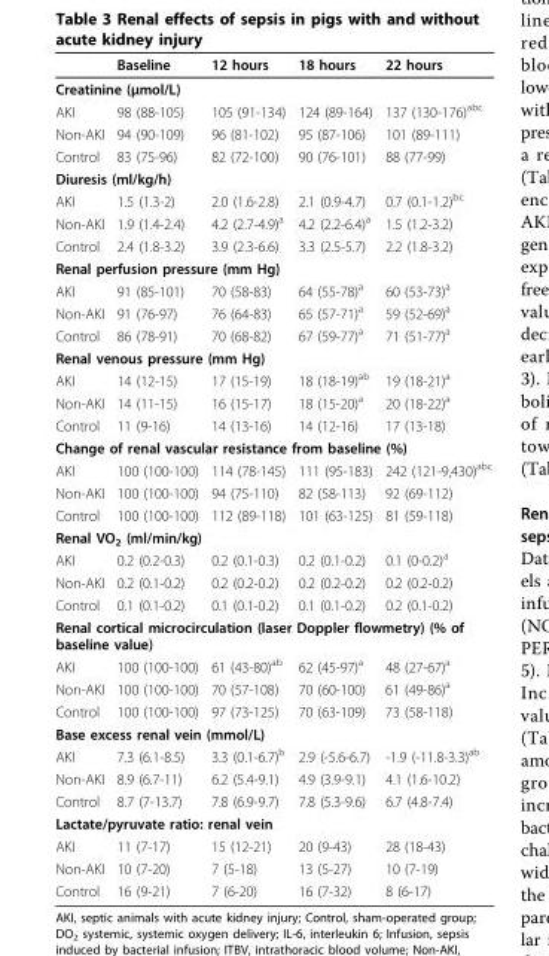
<table><thead><tr><td></td><td>Baseline</td><td>12 hours</td><td>18 hours</td><td>22 hours</td></tr></thead><tbody><tr><td colspan="5">Creatinine (μmol/L)</td></tr><tr><td>AKI</td><td>98 (88-105)</td><td>105 (91-134)</td><td>124 (89-164)</td><td>137 (130-176)<sup>abc</sup></td></tr><tr><td>Non-AKI</td><td>94 (90-109)</td><td>96 (81-102)</td><td>95 (87-106)</td><td>101 (89-111)</td></tr><tr><td>Control</td><td>83 (75-96)</td><td>82 (72-100)</td><td>90 (76-101)</td><td>88 (77-99)</td></tr><tr><td colspan="5">Diuresis (ml/kg/h)</td></tr><tr><td>AKI</td><td>1.5 (1.3-2)</td><td>2.0 (1.6-2.8)</td><td>2.1 (0.9-4.7)</td><td>0.7 (0.1-1.2)<sup>bc</sup></td></tr><tr><td>Non-AKI</td><td>1.9 (1.4-2.4)</td><td>4.2 (2.7-4.9)<sup>a</sup></td><td>4.2 (2.2-6.4)<sup>a</sup></td><td>1.5 (1.2-3.2)</td></tr><tr><td>Control</td><td>2.4 (1.8-3.2)</td><td>3.9 (2.3-6.6)</td><td>3.3 (2.5-5.7)</td><td>2.2 (1.8-3.2)</td></tr><tr><td colspan="5">Renal perfusion pressure (mm Hg)</td></tr><tr><td>AKI</td><td>91 (85-101)</td><td>70 (58-83)</td><td>64 (55-78)<sup>a</sup></td><td>60 (53-73)<sup>a</sup></td></tr><tr><td>Non-AKI</td><td>91 (76-97)</td><td>76 (64-83)</td><td>65 (57-71)<sup>a</sup></td><td>59 (52-69)<sup>a</sup></td></tr><tr><td>Control</td><td>86 (78-91)</td><td>70 (68-82)</td><td>67 (59-77)<sup>a</sup></td><td>71 (51-77)<sup>a</sup></td></tr><tr><td colspan="5">Renal venous pressure (mm Hg)</td></tr><tr><td>AKI</td><td>14 (12-15)</td><td>17 (15-19)</td><td>18 (18-19)<sup>ab</sup></td><td>19 (18-21)<sup>a</sup></td></tr><tr><td>Non-AKI</td><td>14 (11-15)</td><td>16 (15-17)</td><td>18 (15-20)<sup>a</sup></td><td>20 (18-22)<sup>a</sup></td></tr><tr><td>Control</td><td>11 (9-16)</td><td>14 (13-16)</td><td>14 (12-16)</td><td>17 (13-18)</td></tr><tr><td colspan="5">Change of renal vascular resistance from baseline (%)</td></tr><tr><td>AKI</td><td>100 (100-100)</td><td>114 (78-145)</td><td>111 (95-183)</td><td>242 (121-9,430)<sup>abc</sup></td></tr><tr><td>Non-AKI</td><td>100 (100-100)</td><td>94 (75-110)</td><td>82 (58-113)</td><td>92 (69-112)</td></tr><tr><td>Control</td><td>100 (100-100)</td><td>112 (89-118)</td><td>101 (63-125)</td><td>81 (59-118)</td></tr><tr><td colspan="5">Renal VO<sub>2</sub> (ml/min/kg)</td></tr><tr><td>AKI</td><td>0.2 (0.2-0.3)</td><td>0.2 (0.1-0.3)</td><td>0.2 (0.1-0.2)</td><td>0.1 (0-0.2)<sup>a</sup></td></tr><tr><td>Non-AKI</td><td>0.2 (0.1-0.2)</td><td>0.2 (0.2-0.2)</td><td>0.2 (0.2-0.2)</td><td>0.2 (0.2-0.2)</td></tr><tr><td>Control</td><td>0.1 (0.1-0.2)</td><td>0.1 (0.1-0.2)</td><td>0.1 (0.1-0.2)</td><td>0.2 (0.1-0.2)</td></tr><tr><td colspan="5">Renal cortical microcirculation (laser Doppler flowmetry) (% of baseline value)</td></tr><tr><td>AKI</td><td>100 (100-100)</td><td>61 (43-80)<sup>ab</sup></td><td>62 (45-97)<sup>a</sup></td><td>48 (27-67)<sup>a</sup></td></tr><tr><td>Non-AKI</td><td>100 (100-100)</td><td>70 (57-108)</td><td>70 (60-100)</td><td>61 (49-86)<sup>a</sup></td></tr><tr><td>Control</td><td>100 (100-100)</td><td>97 (73-125)</td><td>70 (63-109)</td><td>73 (58-118)</td></tr><tr><td colspan="5">Base excess renal vein (mmol/L)</td></tr><tr><td>AKI</td><td>7.3 (6.1-8.5)</td><td>3.3 (0.1-6.7)<sup>b</sup></td><td>2.9 (-5.6-6.7)</td><td>-1.9 (-11.8-3.3)<sup>ab</sup></td></tr><tr><td>Non-AKI</td><td>8.9 (6.7-11)</td><td>6.2 (5.4-9.1)</td><td>4.9 (3.9-9.1)</td><td>4.1 (1.6-10.2)</td></tr><tr><td>Control</td><td>8.7 (7-13.7)</td><td>7.8 (6.9-9.7)</td><td>7.8 (5.3-9.6)</td><td>6.7 (4.8-7.4)</td></tr><tr><td colspan="5">Lactate/pyruvate ratio: renal vein</td></tr><tr><td>AKI</td><td>11 (7-17)</td><td>15 (12-21)</td><td>20 (9-43)</td><td>28 (18-43)</td></tr><tr><td>Non-AKI</td><td>10 (7-20)</td><td>7 (5-18)</td><td>13 (5-27)</td><td>10 (7-19)</td></tr><tr><td>Control</td><td>16 (9-21)</td><td>7 (6-20)</td><td>16 (7-32)</td><td>8 (6-17)</td></tr></tbody></table>